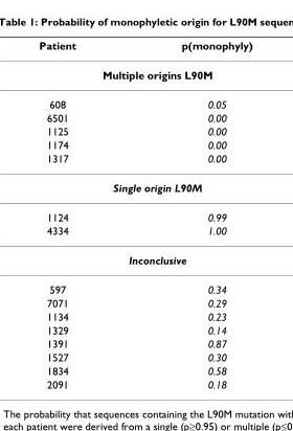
<table><thead><tr><td>Patient</td><td>p(monophyly)</td></tr></thead><tbody><tr><td colspan="2">Multiple origins L90M</td></tr><tr><td>608</td><td>0.05</td></tr><tr><td>6501</td><td>0.00</td></tr><tr><td>1125</td><td>0.00</td></tr><tr><td>1174</td><td>0.00</td></tr><tr><td>1317</td><td>0.00</td></tr><tr><td colspan="2">Single origin L90M</td></tr><tr><td>1124</td><td>0.99</td></tr><tr><td>4334</td><td>1.00</td></tr><tr><td colspan="2">Inconclusive</td></tr><tr><td>597</td><td>0.34</td></tr><tr><td>7071</td><td>0.29</td></tr><tr><td>1134</td><td>0.23</td></tr><tr><td>1329</td><td>0.14</td></tr><tr><td>1391</td><td>0.87</td></tr><tr><td>1527</td><td>0.30</td></tr><tr><td>1834</td><td>0.58</td></tr><tr><td>2091</td><td>0.18</td></tr></tbody></table>